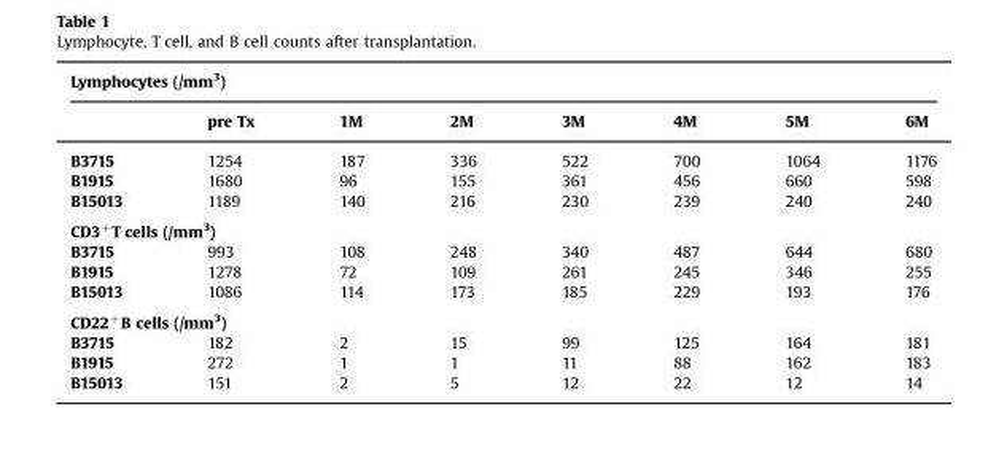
<table><thead><tr><td colspan="8">Lymphocytes (/mm<sup>3</sup>)</td></tr><tr><td></td><td>pre Tx</td><td>1M</td><td>2M</td><td>3M</td><td>4M</td><td>5M</td><td>6M</td></tr></thead><tbody><tr><td>B3715</td><td>1254</td><td>187</td><td>336</td><td>522</td><td>700</td><td>1064</td><td>1176</td></tr><tr><td>B1915</td><td>1680</td><td>96</td><td>155</td><td>361</td><td>456</td><td>660</td><td>598</td></tr><tr><td>B15013</td><td>1189</td><td>140</td><td>216</td><td>230</td><td>239</td><td>240</td><td>240</td></tr><tr><td colspan="8">CD3<sup>+</sup>T cells (/mm<sup>3</sup>)</td></tr><tr><td>B3715</td><td>993</td><td>108</td><td>248</td><td>340</td><td>487</td><td>644</td><td>680</td></tr><tr><td>B1915</td><td>1278</td><td>72</td><td>109</td><td>261</td><td>245</td><td>346</td><td>255</td></tr><tr><td>B15013</td><td>1086</td><td>114</td><td>173</td><td>185</td><td>229</td><td>193</td><td>176</td></tr><tr><td colspan="8">CD22<sup>+</sup>B cells (/mm<sup>3</sup>)</td></tr><tr><td>B3715</td><td>182</td><td>2</td><td>15</td><td>99</td><td>125</td><td>164</td><td>181</td></tr><tr><td>B1915</td><td>272</td><td>1</td><td>1</td><td>11</td><td>88</td><td>162</td><td>183</td></tr><tr><td>B15013</td><td>151</td><td>2</td><td>5</td><td>12</td><td>22</td><td>12</td><td>14</td></tr></tbody></table>